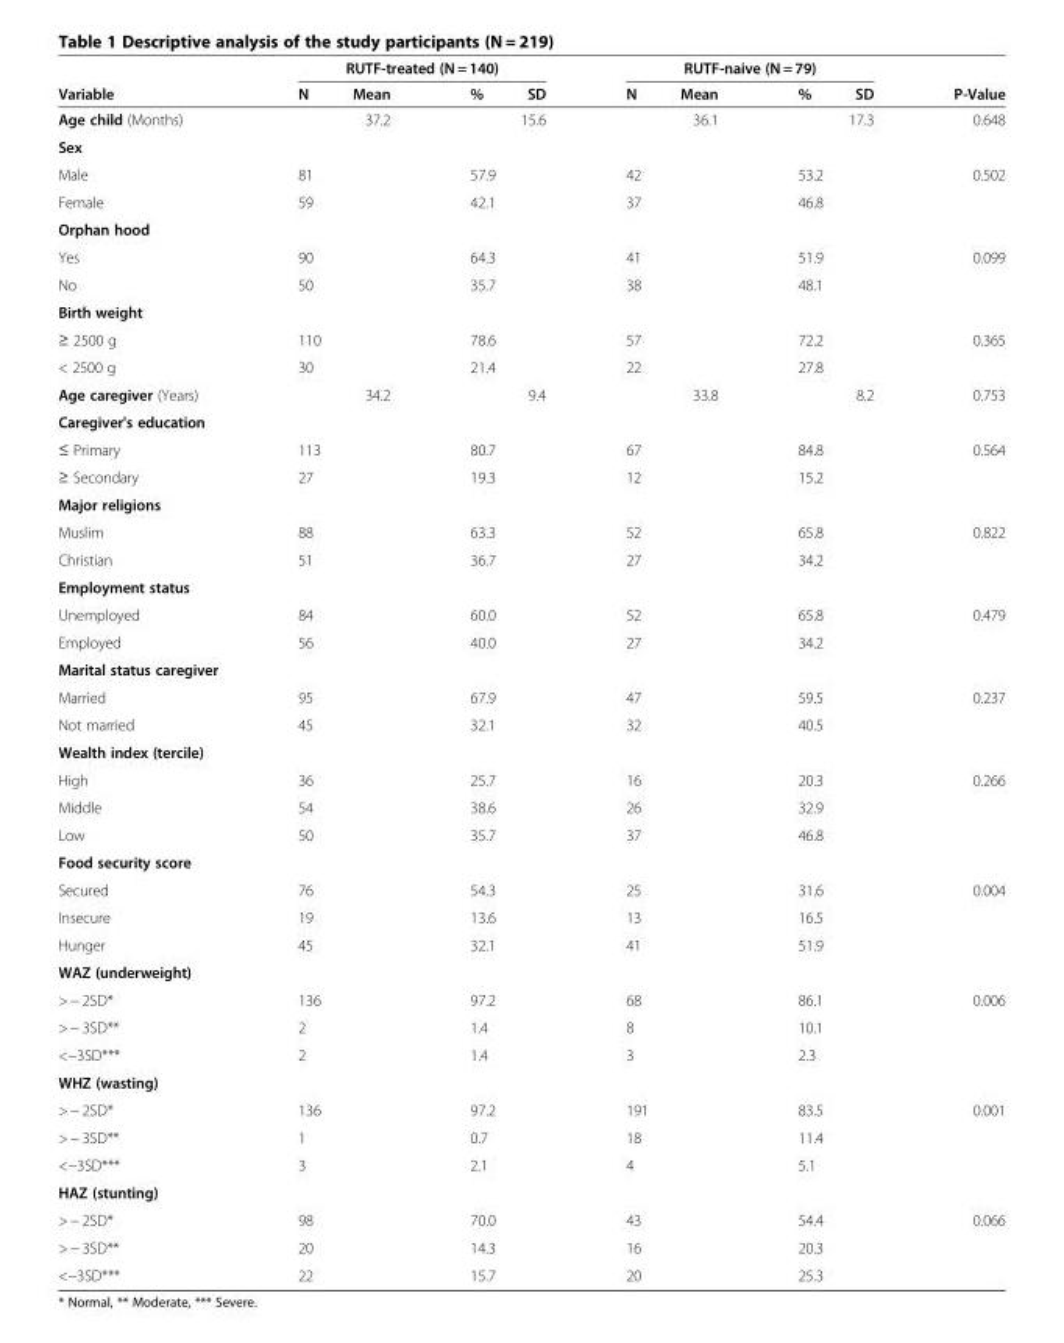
<table><thead><tr><td rowspan="2">Variable</td><td colspan="4">RUTF-treated (N = 140)</td><td colspan="4">RUTF-naive (N = 79)</td><td rowspan="2">P-Value</td></tr><tr><td>N</td><td>Mean</td><td>%</td><td>SD</td><td>N</td><td>Mean</td><td>%</td><td>SD</td></tr></thead><tbody><tr><td>Age child (Months)</td><td></td><td>37.2</td><td></td><td>15.6</td><td></td><td>36.1</td><td></td><td>17.3</td><td>0.648</td></tr><tr><td colspan="10">Sex</td></tr><tr><td>Male</td><td>81</td><td></td><td>57.9</td><td></td><td>42</td><td></td><td>53.2</td><td></td><td>0.502</td></tr><tr><td>Female</td><td>59</td><td></td><td>42.1</td><td></td><td>37</td><td></td><td>46.8</td><td></td><td></td></tr><tr><td colspan="10">Orphan hood</td></tr><tr><td>Yes</td><td>90</td><td></td><td>64.3</td><td></td><td>41</td><td></td><td>51.9</td><td></td><td>0.099</td></tr><tr><td>No</td><td>50</td><td></td><td>35.7</td><td></td><td>38</td><td></td><td>48.1</td><td></td><td></td></tr><tr><td colspan="10">Birth weight</td></tr><tr><td>≥ 2500 g</td><td>110</td><td></td><td>78.6</td><td></td><td>57</td><td></td><td>72.2</td><td></td><td>0.365</td></tr><tr><td>&lt; 2500 g</td><td>30</td><td></td><td>21.4</td><td></td><td>22</td><td></td><td>27.8</td><td></td><td></td></tr><tr><td>Age caregiver (Years)</td><td></td><td>34.2</td><td></td><td>9.4</td><td></td><td>33.8</td><td></td><td>8.2</td><td>0.753</td></tr><tr><td colspan="10">Caregiver&#x27;s education</td></tr><tr><td>≤ Primary</td><td>113</td><td></td><td>80.7</td><td></td><td>67</td><td></td><td>84.8</td><td></td><td>0.564</td></tr><tr><td>≥ Secondary</td><td>27</td><td></td><td>19.3</td><td></td><td>12</td><td></td><td>15.2</td><td></td><td></td></tr><tr><td colspan="10">Major religions</td></tr><tr><td>Muslim</td><td>88</td><td></td><td>63.3</td><td></td><td>52</td><td></td><td>65.8</td><td></td><td>0.822</td></tr><tr><td>Christian</td><td>51</td><td></td><td>36.7</td><td></td><td>27</td><td></td><td>34.2</td><td></td><td></td></tr><tr><td colspan="10">Employment status</td></tr><tr><td>Unemployed</td><td>84</td><td></td><td>60.0</td><td></td><td>52</td><td></td><td>65.8</td><td></td><td>0.479</td></tr><tr><td>Employed</td><td>56</td><td></td><td>40.0</td><td></td><td>27</td><td></td><td>34.2</td><td></td><td></td></tr><tr><td colspan="10">Marital status caregiver</td></tr><tr><td>Married</td><td>95</td><td></td><td>67.9</td><td></td><td>47</td><td></td><td>59.5</td><td></td><td>0.237</td></tr><tr><td>Not married</td><td>45</td><td></td><td>32.1</td><td></td><td>32</td><td></td><td>40.5</td><td></td><td></td></tr><tr><td colspan="10">Wealth index (tercile)</td></tr><tr><td>High</td><td>36</td><td></td><td>25.7</td><td></td><td>16</td><td></td><td>20.3</td><td></td><td>0.266</td></tr><tr><td>Middle</td><td>54</td><td></td><td>38.6</td><td></td><td>26</td><td></td><td>32.9</td><td></td><td></td></tr><tr><td>Low</td><td>50</td><td></td><td>35.7</td><td></td><td>37</td><td></td><td>46.8</td><td></td><td></td></tr><tr><td colspan="10">Food security score</td></tr><tr><td>Secured</td><td>76</td><td></td><td>54.3</td><td></td><td>25</td><td></td><td>31.6</td><td></td><td>0.004</td></tr><tr><td>Insecure</td><td>19</td><td></td><td>13.6</td><td></td><td>13</td><td></td><td>16.5</td><td></td><td></td></tr><tr><td>Hunger</td><td>45</td><td></td><td>32.1</td><td></td><td>41</td><td></td><td>51.9</td><td></td><td></td></tr><tr><td colspan="10">WAZ (underweight)</td></tr><tr><td>&gt; − 2SD*</td><td>136</td><td></td><td>97.2</td><td></td><td>68</td><td></td><td>86.1</td><td></td><td>0.006</td></tr><tr><td>&gt; − 3SD**</td><td>2</td><td></td><td>1.4</td><td></td><td>8</td><td></td><td>10.1</td><td></td><td></td></tr><tr><td>&lt;−3SD***</td><td>2</td><td></td><td>1.4</td><td></td><td>3</td><td></td><td>2.3</td><td></td><td></td></tr><tr><td colspan="10">WHZ (wasting)</td></tr><tr><td>&gt; − 2SD*</td><td>136</td><td></td><td>97.2</td><td></td><td>191</td><td></td><td>83.5</td><td></td><td>0.001</td></tr><tr><td>&gt; − 3SD**</td><td>1</td><td></td><td>0.7</td><td></td><td>18</td><td></td><td>11.4</td><td></td><td></td></tr><tr><td>&lt;−3SD***</td><td>3</td><td></td><td>2.1</td><td></td><td>4</td><td></td><td>5.1</td><td></td><td></td></tr><tr><td colspan="10">HAZ (stunting)</td></tr><tr><td>&gt; − 2SD*</td><td>98</td><td></td><td>70.0</td><td></td><td>43</td><td></td><td>54.4</td><td></td><td>0.066</td></tr><tr><td>&gt; − 3SD**</td><td>20</td><td></td><td>14.3</td><td></td><td>16</td><td></td><td>20.3</td><td></td><td></td></tr><tr><td>&lt;−3SD***</td><td>22</td><td></td><td>15.7</td><td></td><td>20</td><td></td><td>25.3</td><td></td><td></td></tr></tbody></table>